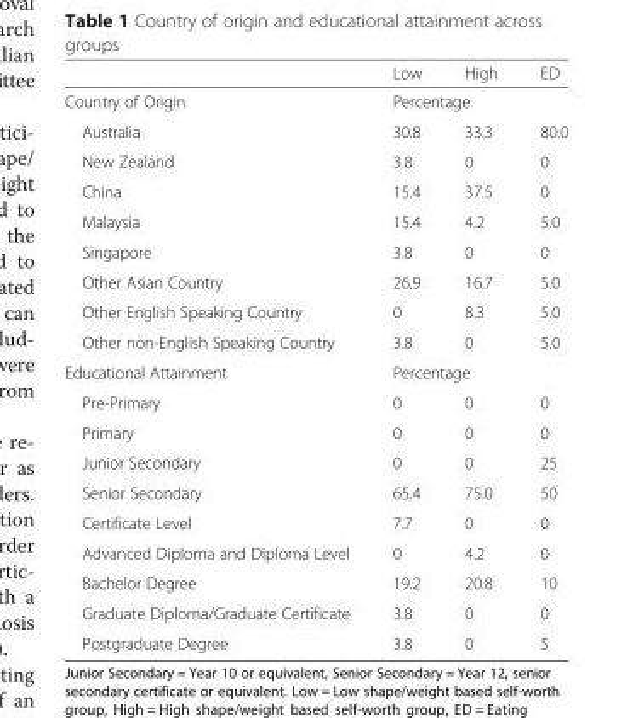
<table><thead><tr><td></td><td>Low</td><td>High</td><td>ED</td></tr></thead><tbody><tr><td>Country of Origin</td><td colspan="3">Percentage</td></tr><tr><td>Australia</td><td>30.8</td><td>33.3</td><td>80.0</td></tr><tr><td>New Zealand</td><td>3.8</td><td>0</td><td>0</td></tr><tr><td>China</td><td>15.4</td><td>37.5</td><td>0</td></tr><tr><td>Malaysia</td><td>15.4</td><td>4.2</td><td>5.0</td></tr><tr><td>Singapore</td><td>3.8</td><td>0</td><td>0</td></tr><tr><td>Other Asian Country</td><td>26.9</td><td>16.7</td><td>5.0</td></tr><tr><td>Other English Speaking Country</td><td>0</td><td>8.3</td><td>5.0</td></tr><tr><td>Other non-English Speaking Country</td><td>3.8</td><td>0</td><td>5.0</td></tr><tr><td>Educational Attainment</td><td colspan="3">Percentage</td></tr><tr><td>Pre-Primary</td><td>0</td><td>0</td><td>0</td></tr><tr><td>Primary</td><td>0</td><td>0</td><td>0</td></tr><tr><td>Junior Secondary</td><td>0</td><td>0</td><td>25</td></tr><tr><td>Senior Secondary</td><td>65.4</td><td>75.0</td><td>50</td></tr><tr><td>Certificate Level</td><td>7.7</td><td>0</td><td>0</td></tr><tr><td>Advanced Diploma and Diploma Level</td><td>0</td><td>4.2</td><td>0</td></tr><tr><td>Bachelor Degree</td><td>19.2</td><td>20.8</td><td>10</td></tr><tr><td>Graduate Diploma/Graduate Certificate</td><td>3.8</td><td>0</td><td>0</td></tr><tr><td>Postgraduate Degree</td><td>3.8</td><td>0</td><td>5</td></tr></tbody></table>